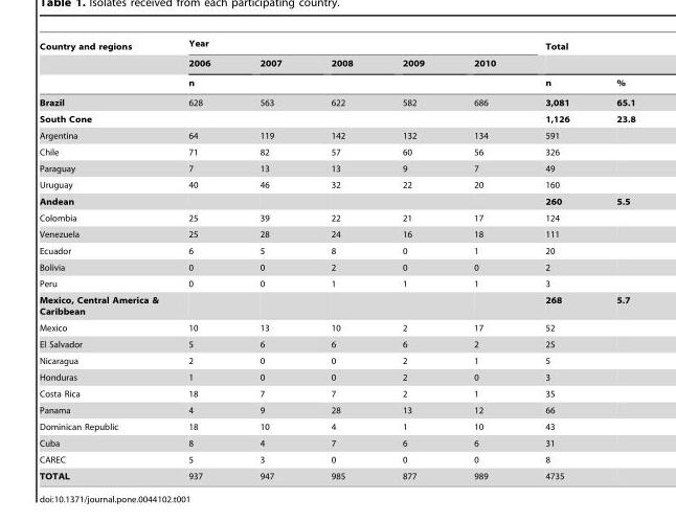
<table><thead><tr><td rowspan="3">Country and regions</td><td colspan="5">Year</td><td colspan="2">Total</td></tr><tr><td>2006</td><td>2007</td><td>2008</td><td>2009</td><td>2010</td><td rowspan="2">n</td><td rowspan="2">%</td></tr><tr><td colspan="5">n</td></tr></thead><tbody><tr><td>Brazil</td><td>628</td><td>563</td><td>622</td><td>582</td><td>686</td><td>3,081</td><td>65.1</td></tr><tr><td>South Cone</td><td></td><td></td><td></td><td></td><td></td><td>1,126</td><td>23.8</td></tr><tr><td>Argentina</td><td>64</td><td>119</td><td>142</td><td>132</td><td>134</td><td>591</td><td></td></tr><tr><td>Chile</td><td>71</td><td>82</td><td>57</td><td>60</td><td>56</td><td>326</td><td></td></tr><tr><td>Paraguay</td><td>7</td><td>13</td><td>13</td><td>9</td><td>7</td><td>49</td><td></td></tr><tr><td>Uruguay</td><td>40</td><td>46</td><td>32</td><td>22</td><td>20</td><td>160</td><td></td></tr><tr><td>Andean</td><td></td><td></td><td></td><td></td><td></td><td>260</td><td>5.5</td></tr><tr><td>Colombia</td><td>25</td><td>39</td><td>22</td><td>21</td><td>17</td><td>124</td><td></td></tr><tr><td>Venezuela</td><td>25</td><td>28</td><td>24</td><td>16</td><td>18</td><td>111</td><td></td></tr><tr><td>Ecuador</td><td>6</td><td>5</td><td>8</td><td>0</td><td>1</td><td>20</td><td></td></tr><tr><td>Bolivia</td><td>0</td><td>0</td><td>2</td><td>0</td><td>0</td><td>2</td><td></td></tr><tr><td>Peru</td><td>0</td><td>0</td><td>1</td><td>1</td><td>1</td><td>3</td><td></td></tr><tr><td>Mexico, Central America &amp; Caribbean</td><td></td><td></td><td></td><td></td><td></td><td>268</td><td>5.7</td></tr><tr><td>Mexico</td><td>10</td><td>13</td><td>10</td><td>2</td><td>17</td><td>52</td><td></td></tr><tr><td>El Salvador</td><td>5</td><td>6</td><td>6</td><td>6</td><td>2</td><td>25</td><td></td></tr><tr><td>Nicaragua</td><td>2</td><td>0</td><td>0</td><td>2</td><td>1</td><td>5</td><td></td></tr><tr><td>Honduras</td><td>1</td><td>0</td><td>0</td><td>2</td><td>0</td><td>3</td><td></td></tr><tr><td>Costa Rica</td><td>18</td><td>7</td><td>7</td><td>2</td><td>1</td><td>35</td><td></td></tr><tr><td>Panama</td><td>4</td><td>9</td><td>28</td><td>13</td><td>12</td><td>66</td><td></td></tr><tr><td>Dominican Republic</td><td>18</td><td>10</td><td>4</td><td>1</td><td>10</td><td>43</td><td></td></tr><tr><td>Cuba</td><td>8</td><td>4</td><td>7</td><td>6</td><td>6</td><td>31</td><td></td></tr><tr><td>CAREC</td><td>5</td><td>3</td><td>0</td><td>0</td><td>0</td><td>8</td><td></td></tr><tr><td>TOTAL</td><td>937</td><td>947</td><td>985</td><td>877</td><td>989</td><td>4735</td><td></td></tr></tbody></table>